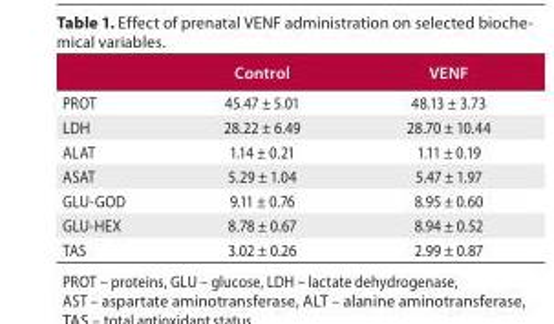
<table><thead><tr><td></td><td>Control</td><td>VENF</td></tr></thead><tbody><tr><td>PROT</td><td>45.47 ± 5.01</td><td>48.13 ± 3.73</td></tr><tr><td>LDH</td><td>28.22 ± 6.49</td><td>28.70 ± 10.44</td></tr><tr><td>ALAT</td><td>1.14 ± 0.21</td><td>1.11 ± 0.19</td></tr><tr><td>ASAT</td><td>5.29 ± 1.04</td><td>5.47 ± 1.97</td></tr><tr><td>GLU-GOD</td><td>9.11 ± 0.76</td><td>8.95 ± 0.60</td></tr><tr><td>GLU-HEX</td><td>8.78 ± 0.67</td><td>8.94 ± 0.52</td></tr><tr><td>TAS</td><td>3.02 ± 0.26</td><td>2.99 ± 0.87</td></tr></tbody></table>